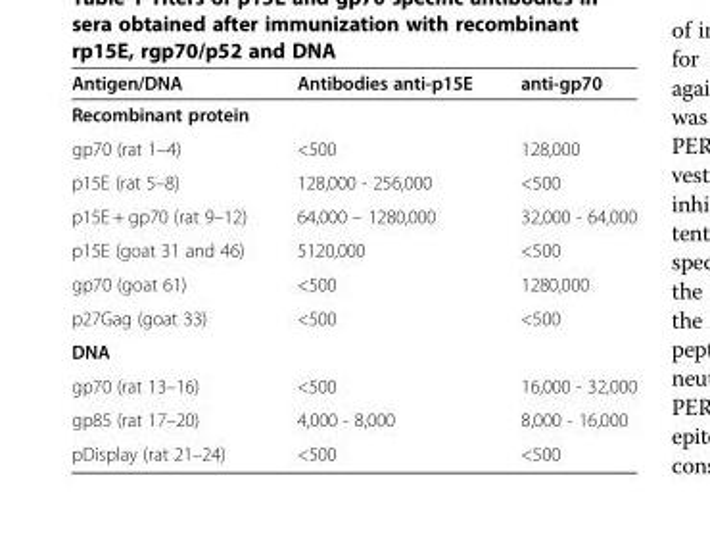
<table><thead><tr><td>Antigen/DNA</td><td>Antibodies anti-p15E</td><td>anti-gp70</td></tr></thead><tbody><tr><td colspan="3">Recombinant protein</td></tr><tr><td>gp70 (rat 1–4)</td><td>&lt;500</td><td>128,000</td></tr><tr><td>p15E (rat 5–8)</td><td>128,000 - 256,000</td><td>&lt;500</td></tr><tr><td>p15E + gp70 (rat 9–12)</td><td>64,000 – 1280,000</td><td>32,000 - 64,000</td></tr><tr><td>p15E (goat 31 and 46)</td><td>5120,000</td><td>&lt;500</td></tr><tr><td>gp70 (goat 61)</td><td>&lt;500</td><td>1280,000</td></tr><tr><td>p27Gag (goat 33)</td><td>&lt;500</td><td>&lt;500</td></tr><tr><td colspan="3">DNA</td></tr><tr><td>gp70 (rat 13–16)</td><td>&lt;500</td><td>16,000 - 32,000</td></tr><tr><td>gp85 (rat 17–20)</td><td>4,000 - 8,000</td><td>8,000 - 16,000</td></tr><tr><td>pDisplay (rat 21–24)</td><td>&lt;500</td><td>&lt;500</td></tr></tbody></table>